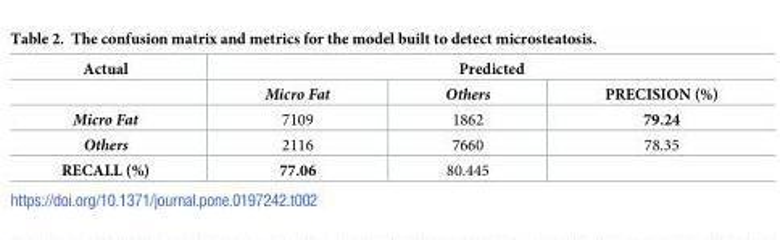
<table><thead><tr><td rowspan="2">Actual</td><td colspan="3">Predicted</td></tr><tr><td>Micro Fat</td><td>Others</td><td>PRECISION (%)</td></tr></thead><tbody><tr><td>Micro Fat</td><td>7109</td><td>1862</td><td>79.24</td></tr><tr><td>Others</td><td>2116</td><td>7660</td><td>78.35</td></tr><tr><td>RECALL (%)</td><td>77.06</td><td>80.445</td><td></td></tr></tbody></table>